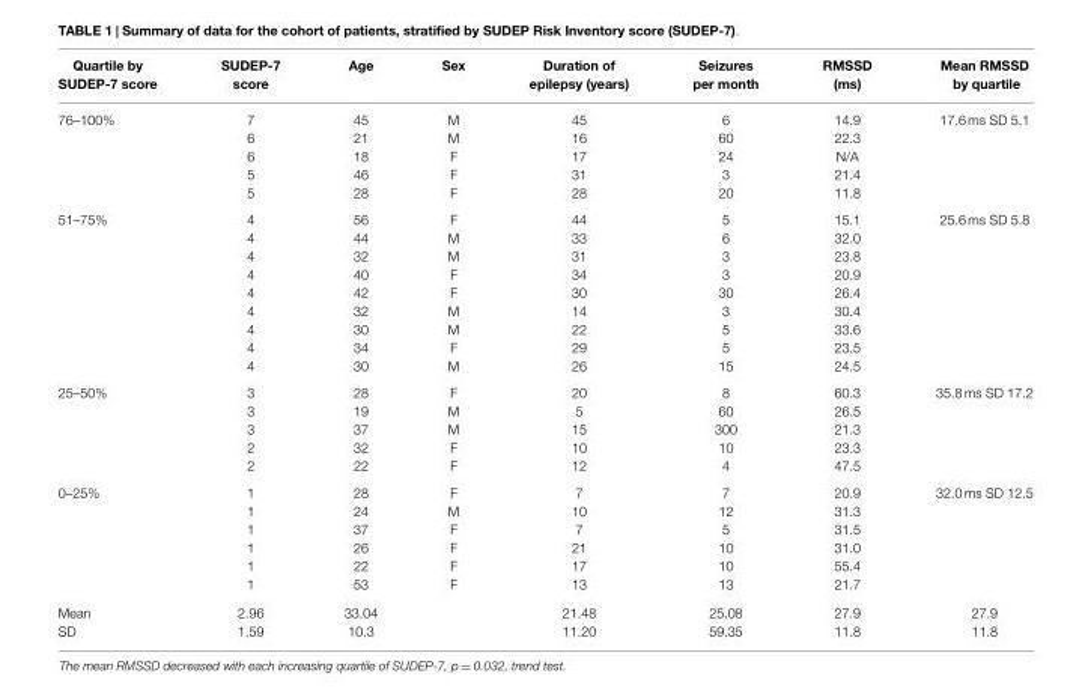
<table><thead><tr><td>Quartile by SUDEP-7 score</td><td>SUDEP-7 score</td><td>Age</td><td>Sex</td><td>Duration of epilepsy (years)</td><td>Seizures per month</td><td>RMSSD (ms)</td><td>Mean RMSSD by quartile</td></tr></thead><tbody><tr><td rowspan="5">76–100%</td><td>7</td><td>45</td><td>M</td><td>45</td><td>6</td><td>14.9</td><td>17.6 ms SD 5.1</td></tr><tr><td>6</td><td>21</td><td>M</td><td>16</td><td>60</td><td>22.3</td><td></td></tr><tr><td>6</td><td>18</td><td>F</td><td>17</td><td>24</td><td>N/A</td><td></td></tr><tr><td>5</td><td>46</td><td>F</td><td>31</td><td>3</td><td>21.4</td><td></td></tr><tr><td>5</td><td>28</td><td>F</td><td>28</td><td>20</td><td>11.8</td><td></td></tr><tr><td rowspan="9">51–75%</td><td>4</td><td>56</td><td>F</td><td>44</td><td>5</td><td>15.1</td><td>25.6 ms SD 5.8</td></tr><tr><td>4</td><td>44</td><td>M</td><td>33</td><td>6</td><td>32.0</td><td></td></tr><tr><td>4</td><td>32</td><td>M</td><td>31</td><td>3</td><td>23.8</td><td></td></tr><tr><td>4</td><td>40</td><td>F</td><td>34</td><td>3</td><td>20.9</td><td></td></tr><tr><td>4</td><td>42</td><td>F</td><td>30</td><td>30</td><td>26.4</td><td></td></tr><tr><td>4</td><td>32</td><td>M</td><td>14</td><td>3</td><td>30.4</td><td></td></tr><tr><td>4</td><td>30</td><td>M</td><td>22</td><td>5</td><td>33.6</td><td></td></tr><tr><td>4</td><td>34</td><td>F</td><td>29</td><td>5</td><td>23.5</td><td></td></tr><tr><td>4</td><td>30</td><td>M</td><td>26</td><td>15</td><td>24.5</td><td></td></tr><tr><td rowspan="5">25–50%</td><td>3</td><td>28</td><td>F</td><td>20</td><td>8</td><td>60.3</td><td>35.8 ms SD 17.2</td></tr><tr><td>3</td><td>19</td><td>M</td><td>5</td><td>60</td><td>26.5</td><td></td></tr><tr><td>3</td><td>37</td><td>M</td><td>15</td><td>300</td><td>21.3</td><td></td></tr><tr><td>2</td><td>32</td><td>F</td><td>10</td><td>10</td><td>23.3</td><td></td></tr><tr><td>2</td><td>22</td><td>F</td><td>12</td><td>4</td><td>47.5</td><td></td></tr><tr><td rowspan="6">0–25%</td><td>1</td><td>28</td><td>F</td><td>7</td><td>7</td><td>20.9</td><td>32.0 ms SD 12.5</td></tr><tr><td>1</td><td>24</td><td>M</td><td>10</td><td>12</td><td>31.3</td><td></td></tr><tr><td>1</td><td>37</td><td>F</td><td>7</td><td>5</td><td>31.5</td><td></td></tr><tr><td>1</td><td>26</td><td>F</td><td>21</td><td>10</td><td>31.0</td><td></td></tr><tr><td>1</td><td>22</td><td>F</td><td>17</td><td>10</td><td>55.4</td><td></td></tr><tr><td>1</td><td>53</td><td>F</td><td>13</td><td>13</td><td>21.7</td><td></td></tr><tr><td>Mean</td><td>2.96</td><td>33.04</td><td></td><td>21.48</td><td>25.08</td><td>27.9</td><td>27.9</td></tr><tr><td>SD</td><td>1.59</td><td>10.3</td><td></td><td>11.20</td><td>59.35</td><td>11.8</td><td>11.8</td></tr></tbody></table>